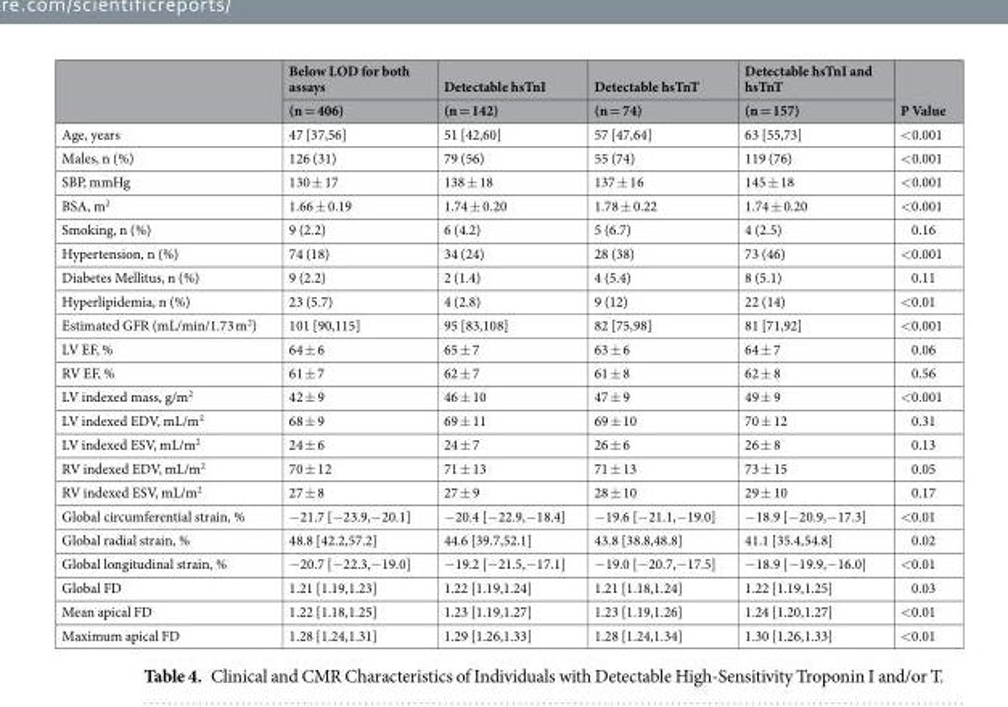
<table><thead><tr><td rowspan="2"></td><td rowspan="2">Below LOD for both assays (n = 406)</td><td rowspan="2">Detectable hsTnI (n = 142)</td><td rowspan="2">Detectable hsTnT (n = 74)</td><td rowspan="2">Detectable hsTnI and hsTnT (n = 157)</td><td rowspan="2">P Value</td></tr><tr></tr></thead><tbody><tr><td>Age, years</td><td>47 [37,56]</td><td>51 [42,60]</td><td>57 [47,64]</td><td>63 [55,73]</td><td>&lt;0.001</td></tr><tr><td>Males, n (%)</td><td>126 (31)</td><td>79 (56)</td><td>55 (74)</td><td>119 (76)</td><td>&lt;0.001</td></tr><tr><td>SBP, mmHg</td><td>130 ± 17</td><td>138 ± 18</td><td>137 ± 16</td><td>145 ± 18</td><td>&lt;0.001</td></tr><tr><td>BSA, m<sup>2</sup></td><td>1.66 ± 0.19</td><td>1.74 ± 0.20</td><td>1.78 ± 0.22</td><td>1.74 ± 0.20</td><td>&lt;0.001</td></tr><tr><td>Smoking, n (%)</td><td>9 (2.2)</td><td>6 (4.2)</td><td>5 (6.7)</td><td>4 (2.5)</td><td>0.16</td></tr><tr><td>Hypertension, n (%)</td><td>74 (18)</td><td>34 (24)</td><td>28 (38)</td><td>73 (46)</td><td>&lt;0.001</td></tr><tr><td>Diabetes Mellitus, n (%)</td><td>9 (2.2)</td><td>2 (1.4)</td><td>4 (5.4)</td><td>8 (5.1)</td><td>0.11</td></tr><tr><td>Hyperlipidemia, n (%)</td><td>23 (5.7)</td><td>4 (2.8)</td><td>9 (12)</td><td>22 (14)</td><td>&lt;0.01</td></tr><tr><td>Estimated GFR (mL/min/1.73 m<sup>2</sup>)</td><td>101 [90,115]</td><td>95 [83,108]</td><td>82 [75,98]</td><td>81 [71,92]</td><td>&lt;0.001</td></tr><tr><td>LV EF, %</td><td>64 ± 6</td><td>65 ± 7</td><td>63 ± 6</td><td>64 ± 7</td><td>0.06</td></tr><tr><td>RV EF, %</td><td>61 ± 7</td><td>62 ± 7</td><td>61 ± 8</td><td>62 ± 8</td><td>0.56</td></tr><tr><td>LV indexed mass, g/m<sup>2</sup></td><td>42 ± 9</td><td>46 ± 10</td><td>47 ± 9</td><td>49 ± 9</td><td>&lt;0.001</td></tr><tr><td>LV indexed EDV, mL/m<sup>2</sup></td><td>68 ± 9</td><td>69 ± 11</td><td>69 ± 10</td><td>70 ± 12</td><td>0.31</td></tr><tr><td>LV indexed ESV, mL/m<sup>2</sup></td><td>24 ± 6</td><td>24 ± 7</td><td>26 ± 6</td><td>26 ± 8</td><td>0.13</td></tr><tr><td>RV indexed EDV, mL/m<sup>2</sup></td><td>70 ± 12</td><td>71 ± 13</td><td>71 ± 13</td><td>73 ± 15</td><td>0.05</td></tr><tr><td>RV indexed ESV, mL/m<sup>2</sup></td><td>27 ± 8</td><td>27 ± 9</td><td>28 ± 10</td><td>29 ± 10</td><td>0.17</td></tr><tr><td>Global circumferential strain, %</td><td>−21.7 [−23.9,−20.1]</td><td>−20.4 [−22.9,−18.4]</td><td>−19.6 [−21.1,−19.0]</td><td>−18.9 [−20.9,−17.3]</td><td>&lt;0.01</td></tr><tr><td>Global radial strain, %</td><td>48.8 [42.2,57.2]</td><td>44.6 [39.7,52.1]</td><td>43.8 [38.8,48.8]</td><td>41.1 [35.4,54.8]</td><td>0.02</td></tr><tr><td>Global longitudinal strain, %</td><td>−20.7 [−22.3,−19.0]</td><td>−19.2 [−21.5,−17.1]</td><td>−19.0 [−20.7,−17.5]</td><td>−18.9 [−19.9,−16.0]</td><td>&lt;0.01</td></tr><tr><td>Global FD</td><td>1.21 [1.19,1.23]</td><td>1.22 [1.19,1.24]</td><td>1.21 [1.18,1.24]</td><td>1.22 [1.19,1.25]</td><td>0.03</td></tr><tr><td>Mean apical FD</td><td>1.22 [1.18,1.25]</td><td>1.23 [1.19,1.27]</td><td>1.23 [1.19,1.26]</td><td>1.24 [1.20,1.27]</td><td>&lt;0.01</td></tr><tr><td>Maximum apical FD</td><td>1.28 [1.24,1.31]</td><td>1.29 [1.26,1.33]</td><td>1.28 [1.24,1.34]</td><td>1.30 [1.26,1.33]</td><td>&lt;0.01</td></tr></tbody></table>